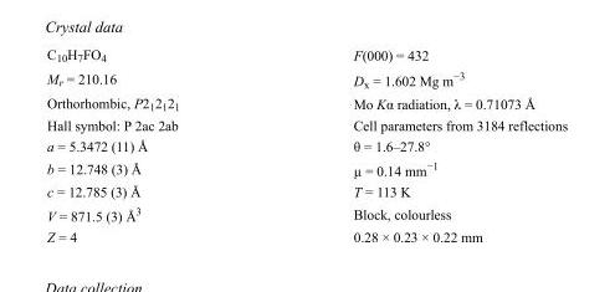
<table><tbody><tr><td>C<sub>10</sub>H<sub>7</sub>FO<sub>4</sub></td><td>F(000) = 432</td></tr><tr><td>M<sub>r</sub> = 210.16</td><td>D<sub>x</sub> = 1.602 Mg m<sup>−3</sup></td></tr><tr><td>Orthorhombic, P2<sub>1</sub>2<sub>1</sub>2<sub>1</sub></td><td>Mo Kα radiation, λ = 0.71073 Å</td></tr><tr><td>Hall symbol: P 2ac 2ab</td><td>Cell parameters from 3184 reflections</td></tr><tr><td>a = 5.3472 (11) Å</td><td>θ = 1.6–27.8°</td></tr><tr><td>b = 12.748 (3) Å</td><td>µ = 0.14 mm<sup>−1</sup></td></tr><tr><td>c = 12.785 (3) Å</td><td>T = 113 K</td></tr><tr><td>V = 871.5 (3) Å<sup>3</sup></td><td>Block, colourless</td></tr><tr><td>Z = 4</td><td>0.28 × 0.23 × 0.22 mm</td></tr></tbody></table>